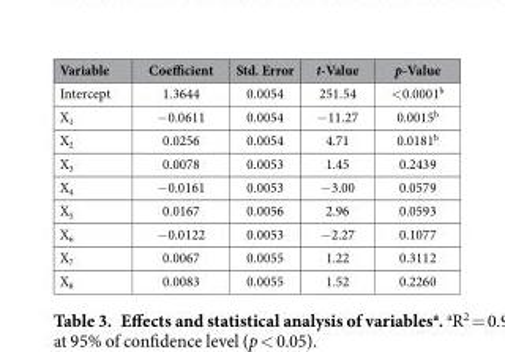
<table><thead><tr><td>Variable</td><td>Coefficient</td><td>Std. Error</td><td>t-Value</td><td>p-Value</td></tr></thead><tbody><tr><td>Intercept</td><td>1.3644</td><td>0.0054</td><td>251.54</td><td>&lt; 0.0001<sup>b</sup></td></tr><tr><td>X<sub>1</sub></td><td>− 0.0611</td><td>0.0054</td><td>− 11.27</td><td>0.0015<sup>b</sup></td></tr><tr><td>X<sub>2</sub></td><td>0.0256</td><td>0.0054</td><td>4.71</td><td>0.0181<sup>b</sup></td></tr><tr><td>X<sub>3</sub></td><td>0.0078</td><td>0.0053</td><td>1.45</td><td>0.2439</td></tr><tr><td>X<sub>4</sub></td><td>− 0.0161</td><td>0.0053</td><td>− 3.00</td><td>0.0579</td></tr><tr><td>X<sub>5</sub></td><td>0.0167</td><td>0.0056</td><td>2.96</td><td>0.0593</td></tr><tr><td>X<sub>6</sub></td><td>− 0.0122</td><td>0.0053</td><td>− 2.27</td><td>0.1077</td></tr><tr><td>X<sub>7</sub></td><td>0.0067</td><td>0.0055</td><td>1.22</td><td>0.3112</td></tr><tr><td>X<sub>8</sub></td><td>0.0083</td><td>0.0055</td><td>1.52</td><td>0.2260</td></tr></tbody></table>